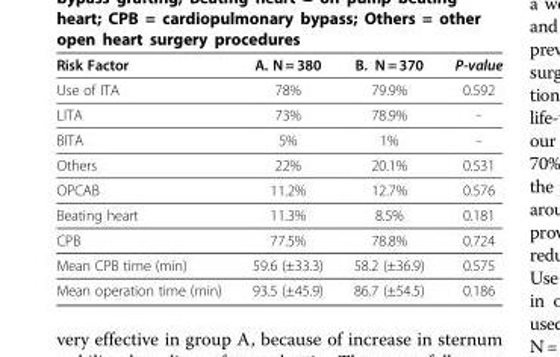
<table><thead><tr><td>Risk Factor</td><td>A. N = 380</td><td>B. N = 370</td><td>P-value</td></tr></thead><tbody><tr><td>Use of ITA</td><td>78%</td><td>79.9%</td><td>0.592</td></tr><tr><td>LITA</td><td>73%</td><td>78.9%</td><td>-</td></tr><tr><td>BITA</td><td>5%</td><td>1%</td><td>-</td></tr><tr><td>Others</td><td>22%</td><td>20.1%</td><td>0.531</td></tr><tr><td>OPCAB</td><td>11.2%</td><td>12.7%</td><td>0.576</td></tr><tr><td>Beating heart</td><td>11.3%</td><td>8.5%</td><td>0.181</td></tr><tr><td>CPB</td><td>77.5%</td><td>78.8%</td><td>0.724</td></tr><tr><td>Mean CPB time (min)</td><td>59.6 (±33.3)</td><td>58.2 (±36.9)</td><td>0.575</td></tr><tr><td>Mean operation time (min)</td><td>93.5 (±45.9)</td><td>86.7 (±54.5)</td><td>0.186</td></tr></tbody></table>